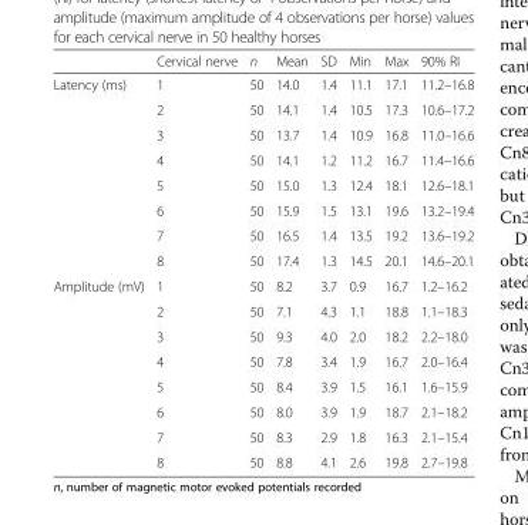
<table><thead><tr><td></td><td>Cervical nerve</td><td>n</td><td>Mean</td><td>SD</td><td>Min</td><td>Max</td><td>90% RI</td></tr></thead><tbody><tr><td rowspan="8">Latency (ms)</td><td>1</td><td>50</td><td>14.0</td><td>1.4</td><td>11.1</td><td>17.1</td><td>11.2–16.8</td></tr><tr><td>2</td><td>50</td><td>14.1</td><td>1.4</td><td>10.5</td><td>17.3</td><td>10.6–17.2</td></tr><tr><td>3</td><td>50</td><td>13.7</td><td>1.4</td><td>10.9</td><td>16.8</td><td>11.0–16.6</td></tr><tr><td>4</td><td>50</td><td>14.1</td><td>1.2</td><td>11.2</td><td>16.7</td><td>11.4–16.6</td></tr><tr><td>5</td><td>50</td><td>15.0</td><td>1.3</td><td>12.4</td><td>18.1</td><td>12.6–18.1</td></tr><tr><td>6</td><td>50</td><td>15.9</td><td>1.5</td><td>13.1</td><td>19.6</td><td>13.2–19.4</td></tr><tr><td>7</td><td>50</td><td>16.5</td><td>1.4</td><td>13.5</td><td>19.2</td><td>13.6–19.2</td></tr><tr><td>8</td><td>50</td><td>17.4</td><td>1.3</td><td>14.5</td><td>20.1</td><td>14.6–20.1</td></tr><tr><td rowspan="8">Amplitude (mV)</td><td>1</td><td>50</td><td>8.2</td><td>3.7</td><td>0.9</td><td>16.7</td><td>1.2–16.2</td></tr><tr><td>2</td><td>50</td><td>7.1</td><td>4.3</td><td>1.1</td><td>18.8</td><td>1.1–18.3</td></tr><tr><td>3</td><td>50</td><td>9.3</td><td>4.0</td><td>2.0</td><td>18.2</td><td>2.2–18.0</td></tr><tr><td>4</td><td>50</td><td>7.8</td><td>3.4</td><td>1.9</td><td>16.7</td><td>2.0–16.4</td></tr><tr><td>5</td><td>50</td><td>8.4</td><td>3.9</td><td>1.5</td><td>16.1</td><td>1.6–15.9</td></tr><tr><td>6</td><td>50</td><td>8.0</td><td>3.9</td><td>1.9</td><td>18.7</td><td>2.1–18.2</td></tr><tr><td>7</td><td>50</td><td>8.3</td><td>2.9</td><td>1.8</td><td>16.3</td><td>2.1–15.4</td></tr><tr><td>8</td><td>50</td><td>8.8</td><td>4.1</td><td>2.6</td><td>19.8</td><td>2.7–19.8</td></tr></tbody></table>